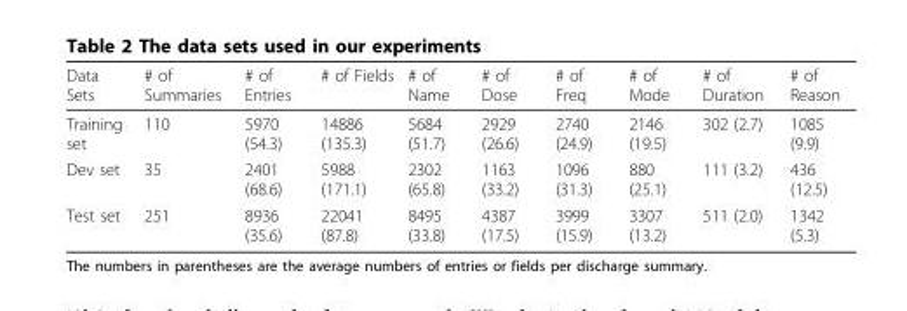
<table><thead><tr><td>Data Sets</td><td># of Summaries</td><td># of Entries</td><td># of Fields</td><td># of Name</td><td># of Dose</td><td># of Freq</td><td># of Mode</td><td># of Duration</td><td># of Reason</td></tr></thead><tbody><tr><td>Training set</td><td>110</td><td>5970 (54.3)</td><td>14886 (135.3)</td><td>5684 (51.7)</td><td>2929 (26.6)</td><td>2740 (24.9)</td><td>2146 (19.5)</td><td>302 (2.7)</td><td>1085 (9.9)</td></tr><tr><td>Dev set</td><td>35</td><td>2401 (68.6)</td><td>5988 (171.1)</td><td>2302 (65.8)</td><td>1163 (33.2)</td><td>1096 (31.3)</td><td>880 (25.1)</td><td>111 (3.2)</td><td>436 (12.5)</td></tr><tr><td>Test set</td><td>251</td><td>8936 (35.6)</td><td>22041 (87.8)</td><td>8495 (33.8)</td><td>4387 (17.5)</td><td>3999 (15.9)</td><td>3307 (13.2)</td><td>511 (2.0)</td><td>1342 (5.3)</td></tr></tbody></table>